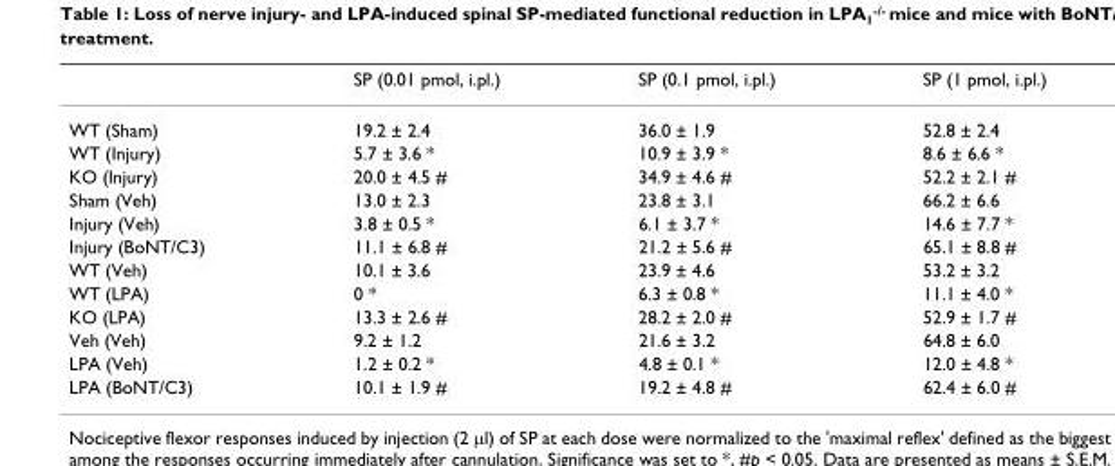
<table><thead><tr><td></td><td>SP (0.01 pmol, i.pl.)</td><td>SP (0.1 pmol, i.pl.)</td><td>SP (1 pmol, i.pl.)</td></tr></thead><tbody><tr><td>WT (Sham)</td><td>19.2 ± 2.4</td><td>36.0 ± 1.9</td><td>52.8 ± 2.4</td></tr><tr><td>WT (Injury)</td><td>5.7 ± 3.6 *</td><td>10.9 ± 3.9 *</td><td>8.6 ± 6.6 *</td></tr><tr><td>KO (Injury)</td><td>20.0 ± 4.5 #</td><td>34.9 ± 4.6 #</td><td>52.2 ± 2.1 #</td></tr><tr><td>Sham (Veh)</td><td>13.0 ± 2.3</td><td>23.8 ± 3.1</td><td>66.2 ± 6.6</td></tr><tr><td>Injury (Veh)</td><td>3.8 ± 0.5 *</td><td>6.1 ± 3.7 *</td><td>14.6 ± 7.7 *</td></tr><tr><td>Injury (BoNT/C3)</td><td>11.1 ± 6.8 #</td><td>21.2 ± 5.6 #</td><td>65.1 ± 8.8 #</td></tr><tr><td>WT (Veh)</td><td>10.1 ± 3.6</td><td>23.9 ± 4.6</td><td>53.2 ± 3.2</td></tr><tr><td>WT (LPA)</td><td>0 *</td><td>6.3 ± 0.8 *</td><td>11.1 ± 4.0 *</td></tr><tr><td>KO (LPA)</td><td>13.3 ± 2.6 #</td><td>28.2 ± 2.0 #</td><td>52.9 ± 1.7 #</td></tr><tr><td>Veh (Veh)</td><td>9.2 ± 1.2</td><td>21.6 ± 3.2</td><td>64.8 ± 6.0</td></tr><tr><td>LPA (Veh)</td><td>1.2 ± 0.2 *</td><td>4.8 ± 0.1 *</td><td>12.0 ± 4.8 *</td></tr><tr><td>LPA (BoNT/C3)</td><td>10.1 ± 1.9 #</td><td>19.2 ± 4.8 #</td><td>62.4 ± 6.0 #</td></tr></tbody></table>